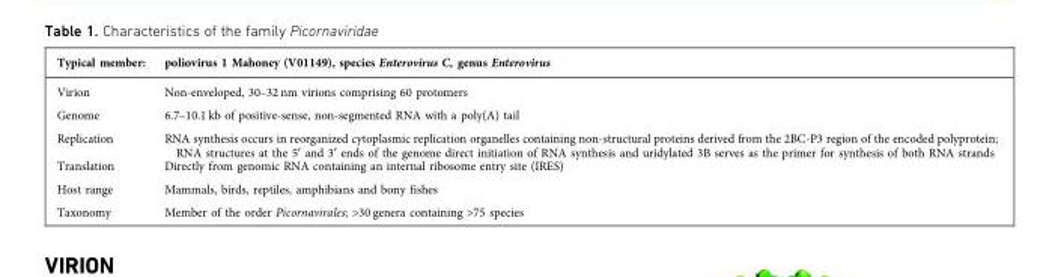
<table><thead><tr><td>Typical member:</td><td>poliovirus 1 Mahoney (V01149), species Enterovirus C, genus Enterovirus</td></tr></thead><tbody><tr><td>Virion</td><td>Non-enveloped, 30–32 nm virions comprising 60 protomers</td></tr><tr><td>Genome</td><td>6.7–10.1 kb of positive-sense, non-segmented RNA with a poly(A) tail</td></tr><tr><td>Replication</td><td>RNA synthesis occurs in reorganized cytoplasmic replication organelles containing non-structural proteins derived from the 2BC-P3 region of the encoded polyprotein; RNA structures at the 5¢ and 3¢ ends of the genome direct initiation of RNA synthesis and uridylated 3B serves as the primer for synthesis of both RNA strands</td></tr><tr><td>Translation</td><td>Directly from genomic RNA containing an internal ribosome entry site (IRES)</td></tr><tr><td>Host range</td><td>Mammals, birds, reptiles, amphibians and bony fishes</td></tr><tr><td>Taxonomy</td><td>Member of the order Picornavirales; &gt;30 genera containing &gt;75 species</td></tr></tbody></table>